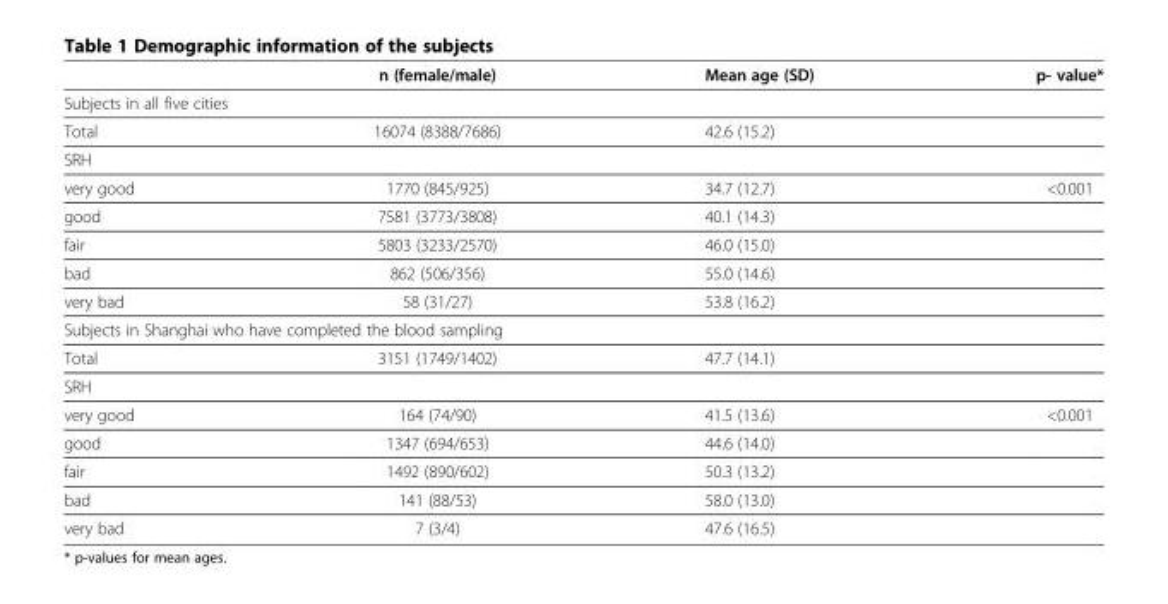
<table><thead><tr><td></td><td>n (female/male)</td><td>Mean age (SD)</td><td>p- value*</td></tr></thead><tbody><tr><td colspan="4">Subjects in all five cities</td></tr><tr><td>Total</td><td>16074 (8388/7686)</td><td>42.6 (15.2)</td><td></td></tr><tr><td colspan="4">SRH</td></tr><tr><td>very good</td><td>1770 (845/925)</td><td>34.7 (12.7)</td><td>&lt;0.001</td></tr><tr><td>good</td><td>7581 (3773/3808)</td><td>40.1 (14.3)</td><td></td></tr><tr><td>fair</td><td>5803 (3233/2570)</td><td>46.0 (15.0)</td><td></td></tr><tr><td>bad</td><td>862 (506/356)</td><td>55.0 (14.6)</td><td></td></tr><tr><td>very bad</td><td>58 (31/27)</td><td>53.8 (16.2)</td><td></td></tr><tr><td colspan="4">Subjects in Shanghai who have completed the blood sampling</td></tr><tr><td>Total</td><td>3151 (1749/1402)</td><td>47.7 (14.1)</td><td></td></tr><tr><td colspan="4">SRH</td></tr><tr><td>very good</td><td>164 (74/90)</td><td>41.5 (13.6)</td><td>&lt;0.001</td></tr><tr><td>good</td><td>1347 (694/653)</td><td>44.6 (14.0)</td><td></td></tr><tr><td>fair</td><td>1492 (890/602)</td><td>50.3 (13.2)</td><td></td></tr><tr><td>bad</td><td>141 (88/53)</td><td>58.0 (13.0)</td><td></td></tr><tr><td>very bad</td><td>7 (3/4)</td><td>47.6 (16.5)</td><td></td></tr></tbody></table>